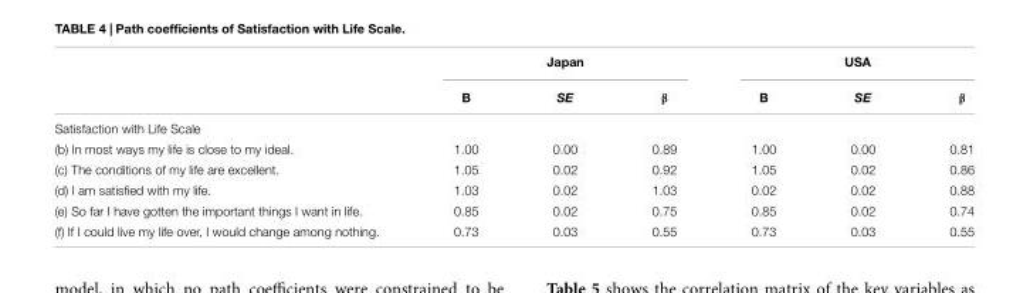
<table><thead><tr><td rowspan="2"></td><td colspan="3">Japan</td><td colspan="3">USA</td></tr><tr><td>B</td><td>SE</td><td>β</td><td>B</td><td>SE</td><td>β</td></tr></thead><tbody><tr><td colspan="7">Satisfaction with Life Scale</td></tr><tr><td>(b) In most ways my life is close to my ideal.</td><td>1.00</td><td>0.00</td><td>0.89</td><td>1.00</td><td>0.00</td><td>0.81</td></tr><tr><td>(c) The conditions of my life are excellent.</td><td>1.05</td><td>0.02</td><td>0.92</td><td>1.05</td><td>0.02</td><td>0.86</td></tr><tr><td>(d) I am satisfied with my life.</td><td>1.03</td><td>0.02</td><td>1.03</td><td>0.02</td><td>0.02</td><td>0.88</td></tr><tr><td>(e) So far I have gotten the important things I want in life.</td><td>0.85</td><td>0.02</td><td>0.75</td><td>0.85</td><td>0.02</td><td>0.74</td></tr><tr><td>(f) If I could live my life over, I would change among nothing.</td><td>0.73</td><td>0.03</td><td>0.55</td><td>0.73</td><td>0.03</td><td>0.55</td></tr></tbody></table>